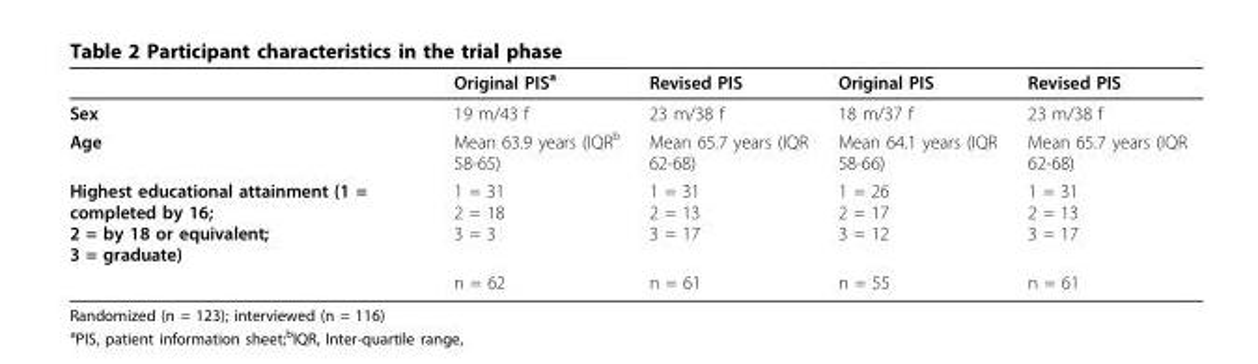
<table><thead><tr><td></td><td>Original PIS<sup>a</sup></td><td>Revised PIS</td><td>Original PIS</td><td>Revised PIS</td></tr></thead><tbody><tr><td>Sex</td><td>19 m/43 f</td><td>23 m/38 f</td><td>18 m/37 f</td><td>23 m/38 f</td></tr><tr><td>Age</td><td>Mean 63.9 years (IQR<sup>b</sup> 58-65)</td><td>Mean 65.7 years (IQR 62-68)</td><td>Mean 64.1 years (IQR 58-66)</td><td>Mean 65.7 years (IQR 62-68)</td></tr><tr><td rowspan="2">Highest educational attainment (1 = completed by 16; 2 = by 18 or equivalent; 3 = graduate)</td><td>1 = 31 2 = 18 3 = 3</td><td>1 = 31 2 = 13 3 = 17</td><td>1 = 26 2 = 17 3 = 12</td><td>1 = 31 2 = 13 3 = 17</td></tr><tr><td>n = 62</td><td>n = 61</td><td>n = 55</td><td>n = 61</td></tr></tbody></table>